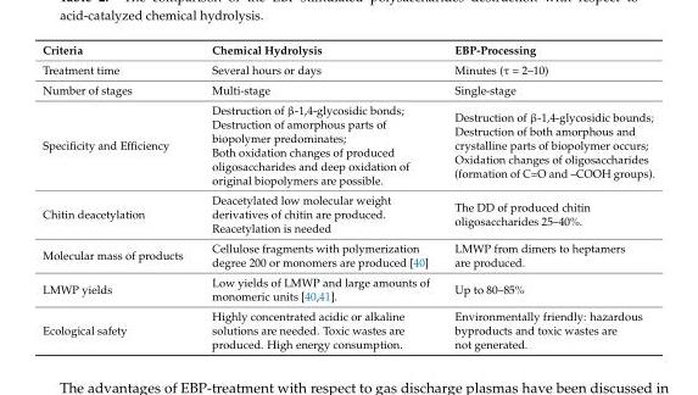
<table><thead><tr><td>Criteria</td><td>Chemical Hydrolysis</td><td>EBP-Processing</td></tr></thead><tbody><tr><td>Treatment time</td><td>Several hours or days</td><td>Minutes (τ = 2–10)</td></tr><tr><td>Number of stages</td><td>Multi-stage</td><td>Single-stage</td></tr><tr><td>Specificity and Efficiency</td><td>Destruction of β-1,4-glycosidic bonds; Destruction of amorphous parts of biopolymer predominates; Both oxidation changes of produced oligosaccharides and deep oxidation of original biopolymers are possible.</td><td>Destruction of β-1,4-glycosidic bounds; Destruction of both amorphous and crystalline parts of biopolymer occurs; Oxidation changes of oligosaccharides (formation of C=O and –COOH groups).</td></tr><tr><td>Chitin deacetylation</td><td>Deacetylated low molecular weight derivatives of chitin are produced. Reacetylation is needed</td><td>The DD of produced chitin oligosaccharides 25–40%.</td></tr><tr><td>Molecular mass of products</td><td>Cellulose fragments with polymerization degree 200 or monomers are produced [40]</td><td>LMWP from dimers to heptamers are produced.</td></tr><tr><td>LMWP yields</td><td>Low yields of LMWP and large amounts of monomeric units [40,41].</td><td>Up to 80–85%</td></tr><tr><td>Ecological safety</td><td>Highly concentrated acidic or alkaline solutions are needed. Toxic wastes are produced. High energy consumption.</td><td>Environmentally friendly: hazardous byproducts and toxic wastes are not generated.</td></tr></tbody></table>